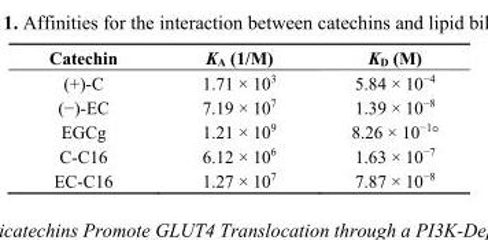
<table><thead><tr><td>Catechin</td><td>K<sub>A</sub> (1/M)</td><td>K<sub>D</sub> (M)</td></tr></thead><tbody><tr><td>(+)-C</td><td>1.71 × 10<sup>3</sup></td><td>5.84 × 10<sup>−4</sup></td></tr><tr><td>(−)-EC</td><td>7.19 × 10<sup>7</sup></td><td>1.39 × 10<sup>−8</sup></td></tr><tr><td>EGCg</td><td>1.21 × 10<sup>9</sup></td><td>8.26 × 10<sup>−1</sup>°</td></tr><tr><td>C-C16</td><td>6.12 × 10<sup>6</sup></td><td>1.63 × 10<sup>−7</sup></td></tr><tr><td>EC-C16</td><td>1.27 × 10<sup>7</sup></td><td>7.87 × 10<sup>−8</sup></td></tr></tbody></table>